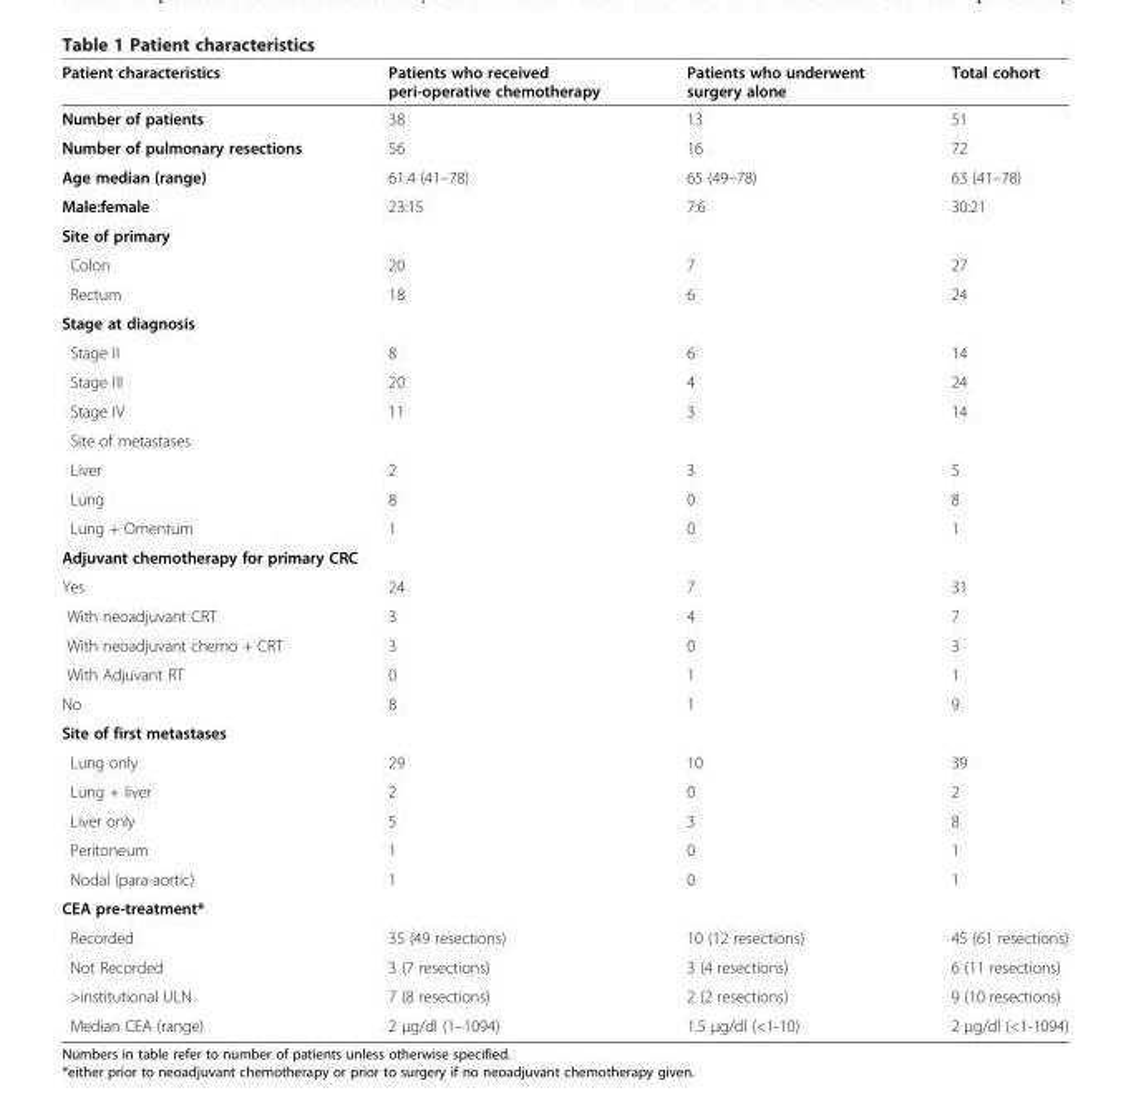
<table><thead><tr><td>Patient characteristics</td><td>Patients who received peri-operative chemotherapy</td><td>Patients who underwent surgery alone</td><td>Total cohort</td></tr></thead><tbody><tr><td>Number of patients</td><td>38</td><td>13</td><td>51</td></tr><tr><td>Number of pulmonary resections</td><td>56</td><td>16</td><td>72</td></tr><tr><td>Age median (range)</td><td>61.4 (41–78)</td><td>65 (49–78)</td><td>63 (41–78)</td></tr><tr><td>Male:female</td><td>23:15</td><td>7:6</td><td>30:21</td></tr><tr><td colspan="4">Site of primary</td></tr><tr><td>Colon</td><td>20</td><td>7</td><td>27</td></tr><tr><td>Rectum</td><td>18</td><td>6</td><td>24</td></tr><tr><td colspan="4">Stage at diagnosis</td></tr><tr><td>Stage II</td><td>8</td><td>6</td><td>14</td></tr><tr><td>Stage III</td><td>20</td><td>4</td><td>24</td></tr><tr><td>Stage IV</td><td>11</td><td>3</td><td>14</td></tr><tr><td colspan="4">Site of metastases</td></tr><tr><td>Liver</td><td>2</td><td>3</td><td>5</td></tr><tr><td>Lung</td><td>8</td><td>0</td><td>8</td></tr><tr><td>Lung + Omentum</td><td>1</td><td>0</td><td>1</td></tr><tr><td colspan="4">Adjuvant chemotherapy for primary CRC</td></tr><tr><td>Yes</td><td>24</td><td>7</td><td>31</td></tr><tr><td>With neoadjuvant CRT</td><td>3</td><td>4</td><td>7</td></tr><tr><td>With neoadjuvant chemo + CRT</td><td>3</td><td>0</td><td>3</td></tr><tr><td>With Adjuvant RT</td><td>0</td><td>1</td><td>1</td></tr><tr><td>No</td><td>8</td><td>1</td><td>9</td></tr><tr><td colspan="4">Site of first metastases</td></tr><tr><td>Lung only</td><td>29</td><td>10</td><td>39</td></tr><tr><td>Lung + liver</td><td>2</td><td>0</td><td>2</td></tr><tr><td>Liver only</td><td>5</td><td>3</td><td>8</td></tr><tr><td>Peritoneum</td><td>1</td><td>0</td><td>1</td></tr><tr><td>Nodal (para-aortic)</td><td>1</td><td>0</td><td>1</td></tr><tr><td colspan="4">CEA pre-treatment*</td></tr><tr><td>Recorded</td><td>35 (49 resections)</td><td>10 (12 resections)</td><td>45 (61 resections)</td></tr><tr><td>Not Recorded</td><td>3 (7 resections)</td><td>3 (4 resections)</td><td>6 (11 resections)</td></tr><tr><td>&gt;institutional ULN</td><td>7 (8 resections)</td><td>2 (2 resections)</td><td>9 (10 resections)</td></tr><tr><td>Median CEA (range)</td><td>2 μg/dl (1–1094)</td><td>1.5 μg/dl (&lt;1-10)</td><td>2 μg/dl (&lt;1-1094)</td></tr></tbody></table>